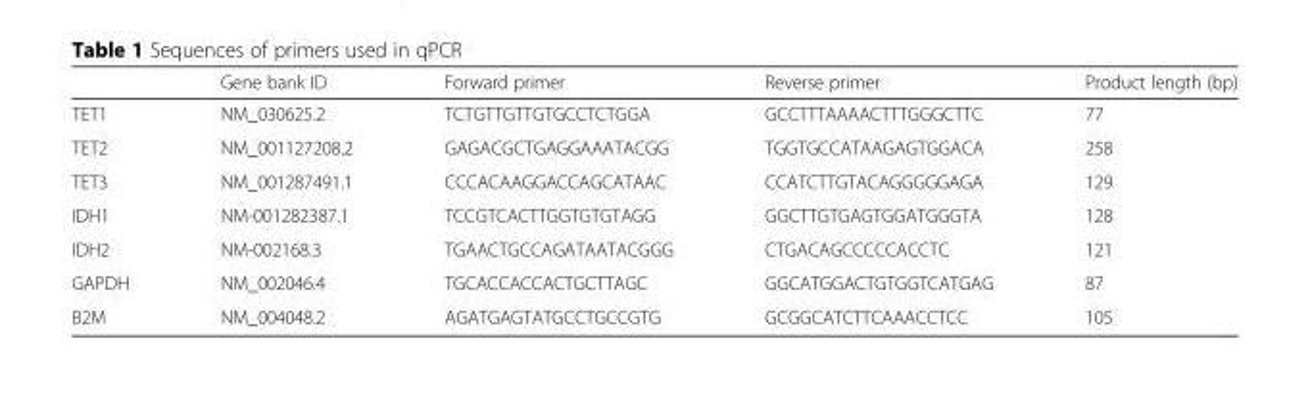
<table><thead><tr><td></td><td>Gene bank ID</td><td>Forward primer</td><td>Reverse primer</td><td>Product length (bp)</td></tr></thead><tbody><tr><td>TET1</td><td>NM_030625.2</td><td>TCTGTTGTTGTGCCTCTGGA</td><td>GCCTTTAAAACTTTGGGCTTC</td><td>77</td></tr><tr><td>TET2</td><td>NM_001127208.2</td><td>GAGACGCTGAGGAAATACGG</td><td>TGGTGCCATAAGAGTGGACA</td><td>258</td></tr><tr><td>TET3</td><td>NM_001287491.1</td><td>CCCACAAGGACCAGCATAAC</td><td>CCATCTTGTACAGGGGGAGA</td><td>129</td></tr><tr><td>IDH1</td><td>NM-001282387.1</td><td>TCCGTCACTTGGTGTGTAGG</td><td>GGCTTGTGAGTGGATGGGTA</td><td>128</td></tr><tr><td>IDH2</td><td>NM-002168.3</td><td>TGAACTGCCAGATAATACGGG</td><td>CTGACAGCCCCCACCTC</td><td>121</td></tr><tr><td>GAPDH</td><td>NM_002046.4</td><td>TGCACCACCACTGCTTAGC</td><td>GGCATGGACTGTGGTCATGAG</td><td>87</td></tr><tr><td>B2M</td><td>NM_004048.2</td><td>AGATGAGTATGCCTGCCGTG</td><td>GCGGCATCTTCAAACCTCC</td><td>105</td></tr></tbody></table>